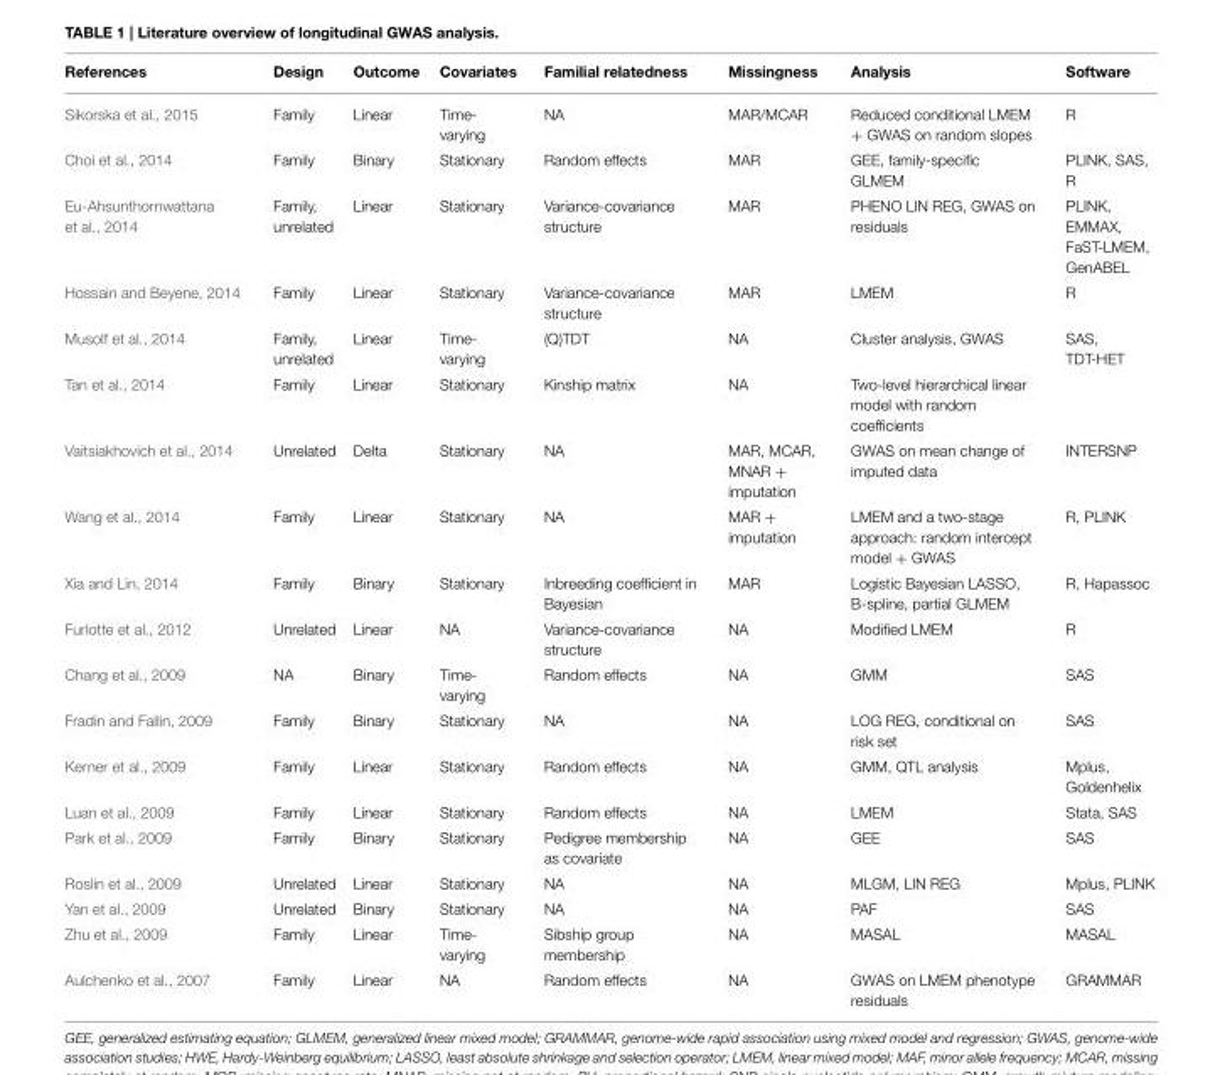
<table><thead><tr><td>References</td><td>Design</td><td>Outcome</td><td>Covariates</td><td>Familial relatedness</td><td>Missingness</td><td>Analysis</td><td>Software</td></tr></thead><tbody><tr><td>Sikorska et al., 2015</td><td>Family</td><td>Linear</td><td>Time- varying</td><td>NA</td><td>MAR/MCAR</td><td>Reduced conditional LMEM + GWAS on random slopes</td><td>R</td></tr><tr><td>Choi et al., 2014</td><td>Family</td><td>Binary</td><td>Stationary</td><td>Random effects</td><td>MAR</td><td>GEE, family-specific GLMEM</td><td>PLINK, SAS, R</td></tr><tr><td>Eu-Ahsunthornwattana et al., 2014</td><td>Family, unrelated</td><td>Linear</td><td>Stationary</td><td>Variance-covariance structure</td><td>MAR</td><td>PHENO LIN REG, GWAS on residuals</td><td>PLINK, EMMAX, FaST-LMEM, GenABEL</td></tr><tr><td>Hossain and Beyene, 2014</td><td>Family</td><td>Linear</td><td>Stationary</td><td>Variance-covariance structure</td><td>MAR</td><td>LMEM</td><td>R</td></tr><tr><td>Musolf et al., 2014</td><td>Family, unrelated</td><td>Linear</td><td>Time- varying</td><td>(Q)TDT</td><td>NA</td><td>Cluster analysis, GWAS</td><td>SAS, TDT-HET</td></tr><tr><td>Tan et al., 2014</td><td>Family</td><td>Linear</td><td>Stationary</td><td>Kinship matrix</td><td>NA</td><td>Two-level hierarchical linear model with random coefficients</td><td></td></tr><tr><td>Vaitsiakhovich et al., 2014</td><td>Unrelated</td><td>Delta</td><td>Stationary</td><td>NA</td><td>MAR, MCAR, MNAR + imputation</td><td>GWAS on mean change of imputed data</td><td>INTERSNP</td></tr><tr><td>Wang et al., 2014</td><td>Family</td><td>Linear</td><td>Stationary</td><td>NA</td><td>MAR + imputation</td><td>LMEM and a two-stage approach: random intercept model + GWAS</td><td>R, PLINK</td></tr><tr><td>Xia and Lin, 2014</td><td>Family</td><td>Binary</td><td>Stationary</td><td>Inbreeding coefficient in Bayesian</td><td>MAR</td><td>Logistic Bayesian LASSO, B-spline, partial GLMEM</td><td>R, Hapassoc</td></tr><tr><td>Furlotte et al., 2012</td><td>Unrelated</td><td>Linear</td><td>NA</td><td>Variance-covariance structure</td><td>NA</td><td>Modified LMEM</td><td>R</td></tr><tr><td>Chang et al., 2009</td><td>NA</td><td>Binary</td><td>Time- varying</td><td>Random effects</td><td>NA</td><td>GMM</td><td>SAS</td></tr><tr><td>Fradin and Fallin, 2009</td><td>Family</td><td>Binary</td><td>Stationary</td><td>NA</td><td>NA</td><td>LOG REG, conditional on risk set</td><td>SAS</td></tr><tr><td>Kerner et al., 2009</td><td>Family</td><td>Linear</td><td>Stationary</td><td>Random effects</td><td>NA</td><td>GMM, QTL analysis</td><td>Mplus, Goldenhelix</td></tr><tr><td>Luan et al., 2009</td><td>Family</td><td>Linear</td><td>Stationary</td><td>Random effects</td><td>NA</td><td>LMEM</td><td>Stata, SAS</td></tr><tr><td>Park et al., 2009</td><td>Family</td><td>Binary</td><td>Stationary</td><td>Pedigree membership as covariate</td><td>NA</td><td>GEE</td><td>SAS</td></tr><tr><td>Roslin et al., 2009</td><td>Unrelated</td><td>Linear</td><td>Stationary</td><td>NA</td><td>NA</td><td>MLGM, LIN REG</td><td>Mplus, PLINK</td></tr><tr><td>Yan et al., 2009</td><td>Unrelated</td><td>Binary</td><td>Stationary</td><td>NA</td><td>NA</td><td>PAF</td><td>SAS</td></tr><tr><td>Zhu et al., 2009</td><td>Family</td><td>Linear</td><td>Time- varying</td><td>Sibship group membership</td><td>NA</td><td>MASAL</td><td>MASAL</td></tr><tr><td>Aulchenko et al., 2007</td><td>Family</td><td>Linear</td><td>NA</td><td>Random effects</td><td>NA</td><td>GWAS on LMEM phenotype residuals</td><td>GRAMMAR</td></tr></tbody></table>